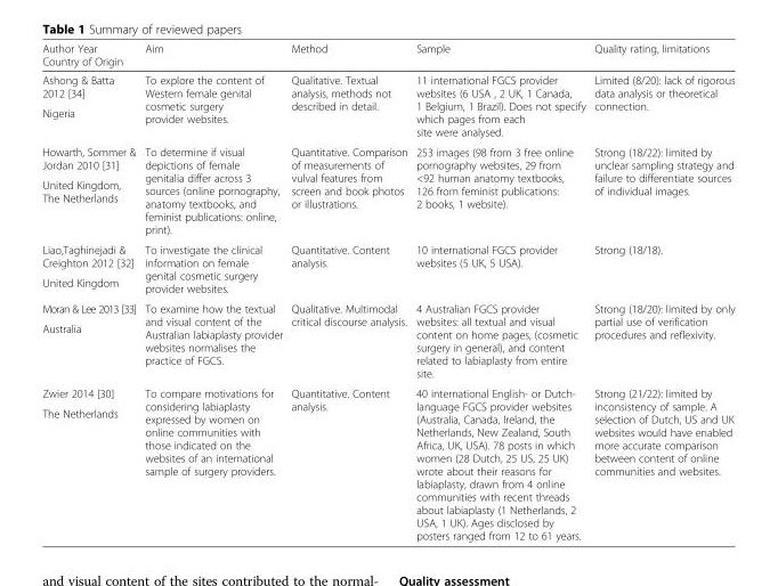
<table><thead><tr><td>Author Year Country of Origin</td><td>Aim</td><td>Method</td><td>Sample</td><td>Quality rating, limitations</td></tr></thead><tbody><tr><td>Ashong &amp; Batta 2012 [34]</td><td rowspan="2">To explore the content of Western female genital cosmetic surgery provider websites.</td><td rowspan="2">Qualitative. Textual analysis, methods not described in detail.</td><td rowspan="2">11 international FGCS provider websites (6 USA , 2 UK, 1 Canada, 1 Belgium, 1 Brazil). Does not specify which pages from each site were analysed.</td><td rowspan="2">Limited (8/20): lack of rigorous data analysis or theoretical connection.</td></tr><tr><td>Nigeria</td></tr><tr><td>Howarth, Sommer &amp; Jordan 2010 [31]</td><td rowspan="2">To determine if visual depictions of female genitalia differ across 3 sources (online pornography, anatomy textbooks, and feminist publications: online, print).</td><td rowspan="2">Quantitative. Comparison of measurements of vulval features from screen and book photos or illustrations.</td><td rowspan="2">253 images (98 from 3 free online pornography websites, 29 from &lt;92 human anatomy textbooks, 126 from feminist publications: 2 books, 1 website).</td><td rowspan="2">Strong (18/22): limited by unclear sampling strategy and failure to differentiate sources of individual images.</td></tr><tr><td>United Kingdom, The Netherlands</td></tr><tr><td>Liao,Taghinejadi &amp; Creighton 2012 [32]</td><td rowspan="2">To investigate the clinical information on female genital cosmetic surgery provider websites.</td><td rowspan="2">Quantitative. Content analysis.</td><td rowspan="2">10 international FGCS provider websites (5 UK, 5 USA).</td><td rowspan="2">Strong (18/18).</td></tr><tr><td>United Kingdom</td></tr><tr><td>Moran &amp; Lee 2013 [33]</td><td rowspan="2">To examine how the textual and visual content of the Australian labiaplasty provider websites normalises the practice of FGCS.</td><td rowspan="2">Qualitative. Multimodal critical discourse analysis.</td><td rowspan="2">4 Australian FGCS provider websites: all textual and visual content on home pages, (cosmetic surgery in general), and content related to labiaplasty from entire site.</td><td rowspan="2">Strong (18/20): limited by only partial use of verification procedures and reflexivity.</td></tr><tr><td>Australia</td></tr><tr><td>Zwier 2014 [30]</td><td rowspan="2">To compare motivations for considering labiaplasty expressed by women on online communities with those indicated on the websites of an international sample of surgery providers.</td><td rowspan="2">Quantitative. Content analysis.</td><td rowspan="2">40 international English- or Dutch- language FGCS provider websites (Australia, Canada, Ireland, the Netherlands, New Zealand, South Africa, UK, USA). 78 posts in which women (28 Dutch, 25 US, 25 UK) wrote about their reasons for labiaplasty, drawn from 4 online communities with recent threads about labiaplasty (1 Netherlands, 2 USA, 1 UK). Ages disclosed by posters ranged from 12 to 61 years.</td><td rowspan="2">Strong (21/22): limited by inconsistency of sample. A selection of Dutch, US and UK websites would have enabled more accurate comparison between content of online communities and websites.</td></tr><tr><td>The Netherlands</td></tr></tbody></table>